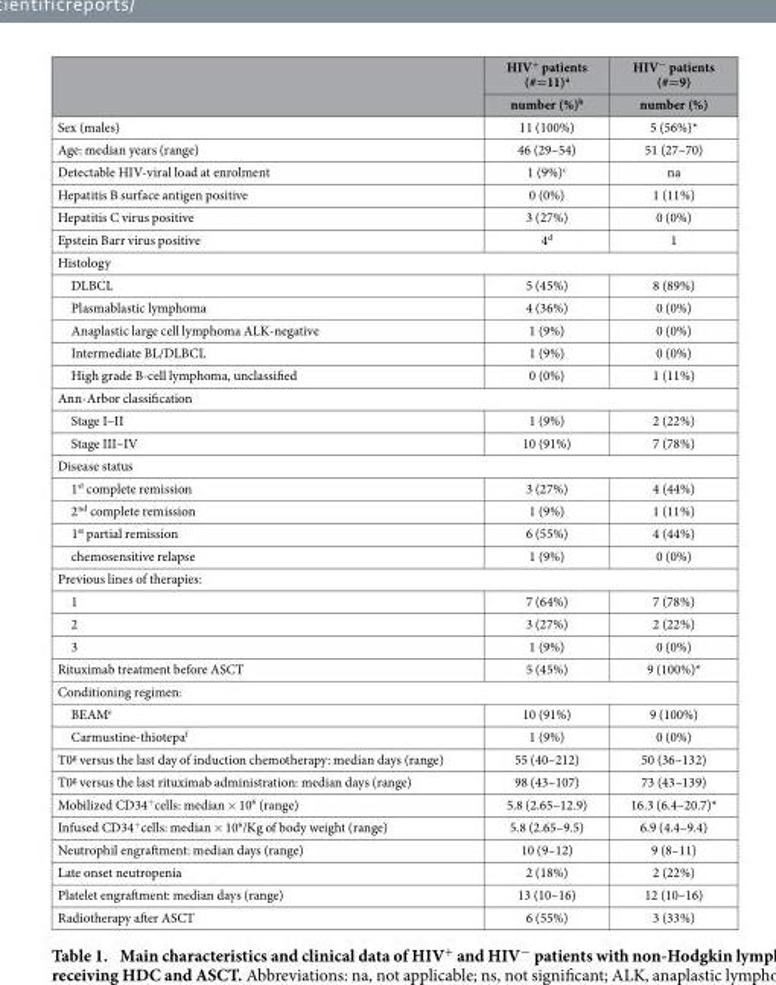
<table><thead><tr><td rowspan="2"></td><td rowspan="2">HIV<sup>+</sup> patients (#=11)<sup>a</sup> number (%)<sup>b</sup></td><td rowspan="2">HIV<sup>−</sup> patients (#=9) number (%)</td></tr><tr></tr></thead><tbody><tr><td>Sex (males)</td><td>11 (100%)</td><td>5 (56%)*</td></tr><tr><td>Age: median years (range)</td><td>46 (29–54)</td><td>51 (27–70)</td></tr><tr><td>Detectable HIV-viral load at enrolment</td><td>1 (9%)<sup>c</sup></td><td>na</td></tr><tr><td>Hepatitis B surface antigen positive</td><td>0 (0%)</td><td>1 (11%)</td></tr><tr><td>Hepatitis C virus positive</td><td>3 (27%)</td><td>0 (0%)</td></tr><tr><td>Epstein Barr virus positive</td><td>4<sup>d</sup></td><td>1</td></tr><tr><td colspan="3">Histology</td></tr><tr><td>DLBCL</td><td>5 (45%)</td><td>8 (89%)</td></tr><tr><td>Plasmablastic lymphoma</td><td>4 (36%)</td><td>0 (0%)</td></tr><tr><td>Anaplastic large cell lymphoma ALK-negative</td><td>1 (9%)</td><td>0 (0%)</td></tr><tr><td>Intermediate BL/DLBCL</td><td>1 (9%)</td><td>0 (0%)</td></tr><tr><td>High grade B-cell lymphoma, unclassified</td><td>0 (0%)</td><td>1 (11%)</td></tr><tr><td colspan="3">Ann-Arbor classification</td></tr><tr><td>Stage I–II</td><td>1 (9%)</td><td>2 (22%)</td></tr><tr><td>Stage III–IV</td><td>10 (91%)</td><td>7 (78%)</td></tr><tr><td colspan="3">Disease status</td></tr><tr><td>1<sup>st</sup> complete remission</td><td>3 (27%)</td><td>4 (44%)</td></tr><tr><td>2<sup>nd</sup> complete remission</td><td>1 (9%)</td><td>1 (11%)</td></tr><tr><td>1<sup>st</sup> partial remission</td><td>6 (55%)</td><td>4 (44%)</td></tr><tr><td>chemosensitive relapse</td><td>1 (9%)</td><td>0 (0%)</td></tr><tr><td colspan="3">Previous lines of therapies:</td></tr><tr><td>1</td><td>7 (64%)</td><td>7 (78%)</td></tr><tr><td>2</td><td>3 (27%)</td><td>2 (22%)</td></tr><tr><td>3</td><td>1 (9%)</td><td>0 (0%)</td></tr><tr><td>Rituximab treatment before ASCT</td><td>5 (45%)</td><td>9 (100%)*</td></tr><tr><td colspan="3">Conditioning regimen:</td></tr><tr><td>BEAM<sup>e</sup></td><td>10 (91%)</td><td>9 (100%)</td></tr><tr><td>Carmustine-thiotepa<sup>f</sup></td><td>1 (9%)</td><td>0 (0%)</td></tr><tr><td>T0<sup>g</sup> versus the last day of induction chemotherapy: median days (range)</td><td>55 (40–212)</td><td>50 (36–132)</td></tr><tr><td>T0<sup>g</sup> versus the last rituximab administration: median days (range)</td><td>98 (43–107)</td><td>73 (43–139)</td></tr><tr><td>Mobilized CD34<sup>+</sup>cells: median × 10<sup>6</sup> (range)</td><td>5.8 (2.65–12.9)</td><td>16.3 (6.4–20.7)*</td></tr><tr><td>Infused CD34<sup>+</sup>cells: median × 10<sup>6</sup>/Kg of body weight (range)</td><td>5.8 (2.65–9.5)</td><td>6.9 (4.4–9.4)</td></tr><tr><td>Neutrophil engraftment: median days (range)</td><td>10 (9–12)</td><td>9 (8–11)</td></tr><tr><td>Late onset neutropenia</td><td>2 (18%)</td><td>2 (22%)</td></tr><tr><td>Platelet engraftment: median days (range)</td><td>13 (10–16)</td><td>12 (10–16)</td></tr><tr><td>Radiotherapy after ASCT</td><td>6 (55%)</td><td>3 (33%)</td></tr></tbody></table>